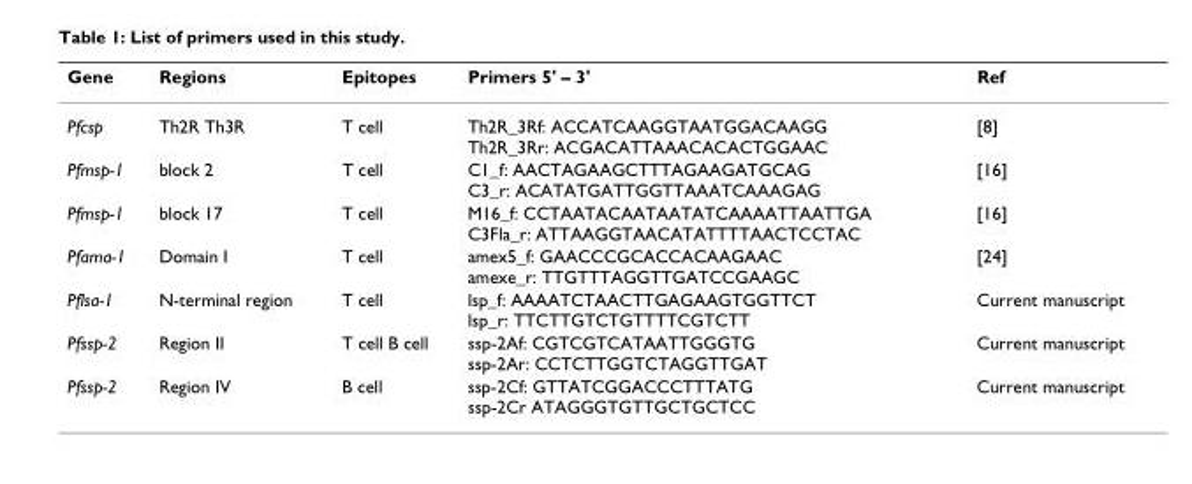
<table><thead><tr><td>Gene</td><td>Regions</td><td>Epitopes</td><td>Primers 5&#x27; – 3&#x27;</td><td>Ref</td></tr></thead><tbody><tr><td>Pfcsp</td><td>Th2R Th3R</td><td>T cell</td><td>Th2R_3Rf: ACCATCAAGGTAATGGACAAGG Th2R_3Rr: ACGACATTAAACACACTGGAAC</td><td>[8]</td></tr><tr><td>Pfmsp-1</td><td>block 2</td><td>T cell</td><td>C1_f: AACTAGAAGCTTTAGAAGATGCAG C3_r: ACATATGATTGGTTAAATCAAAGAG</td><td>[16]</td></tr><tr><td>Pfmsp-1</td><td>block 17</td><td>T cell</td><td>M16_f: CCTAATACAATAATATCAAAATTAATTGA C3Fla_r: ATTAAGGTAACATATTTTAACTCCTAC</td><td>[16]</td></tr><tr><td>Pfama-1</td><td>Domain I</td><td>T cell</td><td>amex5_f: GAACCCGCACCACAAGAAC amexe_r: TTGTTTAGGTTGATCCGAAGC</td><td>[24]</td></tr><tr><td>Pflsa-1</td><td>N-terminal region</td><td>T cell</td><td>lsp_f: AAAATCTAACTTGAGAAGTGGTTCT lsp_r: TTCTTGTCTGTTTTCGTCTT</td><td>Current manuscript</td></tr><tr><td>Pfssp-2</td><td>Region II</td><td>T cell B cell</td><td>ssp-2Af: CGTCGTCATAATTGGGTG ssp-2Ar: CCTCTTGGTCTAGGTTGAT</td><td>Current manuscript</td></tr><tr><td>Pfssp-2</td><td>Region IV</td><td>B cell</td><td>ssp-2Cf: GTTATCGGACCCTTTATG ssp-2Cr ATAGGGTGTTGCTGCTCC</td><td>Current manuscript</td></tr></tbody></table>